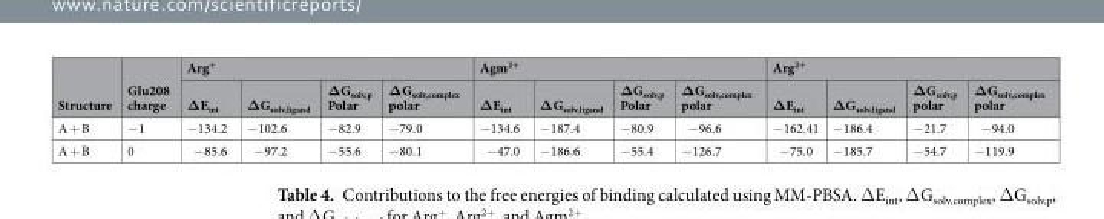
<table><thead><tr><td rowspan="2">Structure</td><td rowspan="2">Glu208 charge</td><td colspan="4">Arg<sup>+</sup></td><td colspan="4">Agm<sup>2+</sup></td><td colspan="4">Arg<sup>2+</sup></td></tr><tr><td>ΔE<sub>int</sub></td><td>ΔG<sub>solv,ligand</sub></td><td>ΔG<sub>solv,p</sub> Polar</td><td>ΔG<sub>solv,complex</sub> polar</td><td>ΔE<sub>int</sub></td><td>ΔG<sub>solv,ligand</sub></td><td>ΔG<sub>solv,p</sub> Polar</td><td>ΔG<sub>solv,complex</sub> polar</td><td>ΔE<sub>int</sub></td><td>ΔG<sub>solv,ligand</sub></td><td>ΔG<sub>solv,p</sub> polar</td><td>ΔG<sub>solv,complex</sub> polar</td></tr></thead><tbody><tr><td>A + B</td><td>−1</td><td>−134.2</td><td>−102.6</td><td>−82.9</td><td>−79.0</td><td>−134.6</td><td>−187.4</td><td>−80.9</td><td>−96.6</td><td>−162.41</td><td>−186.4</td><td>−21.7</td><td>−94.0</td></tr><tr><td>A + B</td><td>0</td><td>−85.6</td><td>−97.2</td><td>−55.6</td><td>−80.1</td><td>−47.0</td><td>−186.6</td><td>−55.4</td><td>−126.7</td><td>−75.0</td><td>−185.7</td><td>−54.7</td><td>−119.9</td></tr></tbody></table>